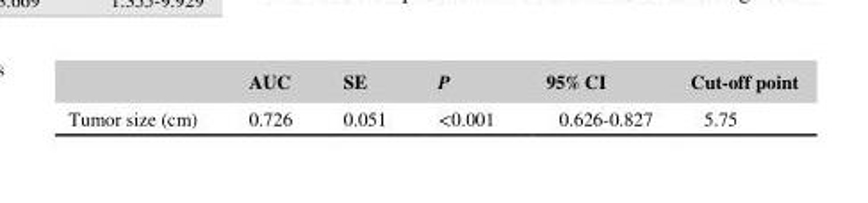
<table><thead><tr><td></td><td>AUC</td><td>SE</td><td>P</td><td>95% CI</td><td>Cut- off point</td></tr></thead><tbody><tr><td>Tumor size (cm)</td><td>0.726</td><td>0.051</td><td>&lt;0.001</td><td>0.626- 0.827</td><td>5.75</td></tr></tbody></table>